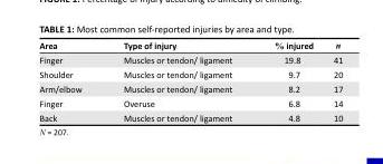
<table><thead><tr><td>Area</td><td>Type of injury</td><td>% injured</td><td>n</td></tr></thead><tbody><tr><td>Finger</td><td>Muscles or tendon/ ligament</td><td>19.8</td><td>41</td></tr><tr><td>Shoulder</td><td>Muscles or tendon/ ligament</td><td>9.7</td><td>20</td></tr><tr><td>Arm/elbow</td><td>Muscles or tendon/ ligament</td><td>8.2</td><td>17</td></tr><tr><td>Finger</td><td>Overuse</td><td>6.8</td><td>14</td></tr><tr><td>Back</td><td>Muscles or tendon/ ligament</td><td>4.8</td><td>10</td></tr></tbody></table>